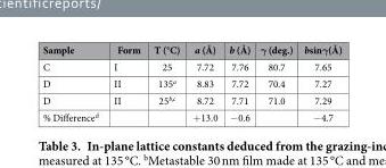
<table><thead><tr><td>Sample</td><td>Form</td><td>T (°C)</td><td>a (Å)</td><td>b (Å)</td><td>γ (deg.)</td><td>bsinγ(Å)</td></tr></thead><tbody><tr><td>C</td><td>I</td><td>25</td><td>7.72</td><td>7.76</td><td>80.7</td><td>7.65</td></tr><tr><td>D</td><td>II</td><td>135<sup>a</sup></td><td>8.83</td><td>7.72</td><td>70.4</td><td>7.27</td></tr><tr><td>D</td><td>II</td><td>25<sup>b</sup>,<sup>c</sup></td><td>8.72</td><td>7.71</td><td>71.0</td><td>7.29</td></tr><tr><td>% Difference<sup>d</sup></td><td></td><td></td><td>+13.0</td><td>−0.6</td><td></td><td>−4.7</td></tr></tbody></table>